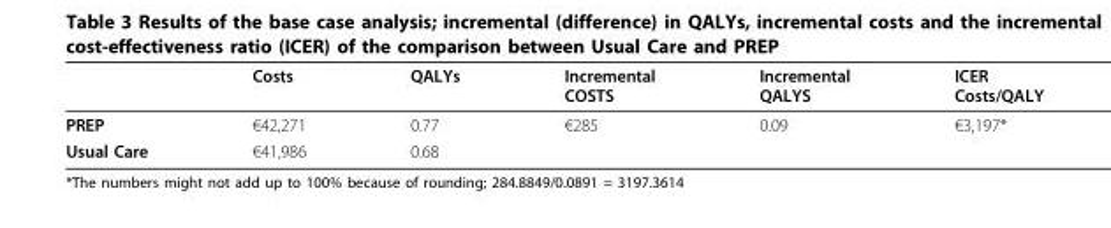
<table><thead><tr><td></td><td>Costs</td><td>QALYs</td><td>Incremental COSTS</td><td>Incremental QALYS</td><td>ICER Costs/QALY</td></tr></thead><tbody><tr><td>PREP</td><td>€42,271</td><td>0.77</td><td>€285</td><td>0.09</td><td>€3,197*</td></tr><tr><td>Usual Care</td><td>€41,986</td><td>0.68</td><td></td><td></td><td></td></tr></tbody></table>